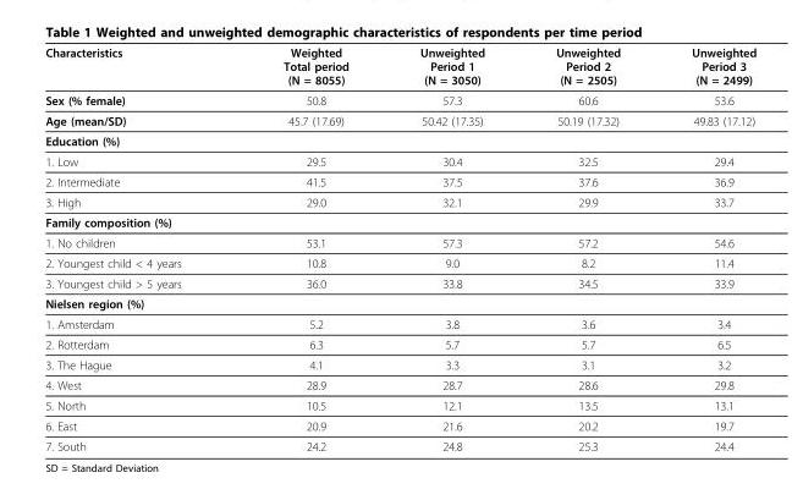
<table><thead><tr><td>Characteristics</td><td>Weighted Total period (N = 8055)</td><td>Unweighted Period 1 (N = 3050)</td><td>Unweighted Period 2 (N = 2505)</td><td>Unweighted Period 3 (N = 2499)</td></tr></thead><tbody><tr><td>Sex (% female)</td><td>50.8</td><td>57.3</td><td>60.6</td><td>53.6</td></tr><tr><td>Age (mean/SD)</td><td>45.7 (17.69)</td><td>50.42 (17.35)</td><td>50.19 (17.32)</td><td>49.83 (17.12)</td></tr><tr><td colspan="5">Education (%)</td></tr><tr><td>1. Low</td><td>29.5</td><td>30.4</td><td>32.5</td><td>29.4</td></tr><tr><td>2. Intermediate</td><td>41.5</td><td>37.5</td><td>37.6</td><td>36.9</td></tr><tr><td>3. High</td><td>29.0</td><td>32.1</td><td>29.9</td><td>33.7</td></tr><tr><td colspan="5">Family composition (%)</td></tr><tr><td>1. No children</td><td>53.1</td><td>57.3</td><td>57.2</td><td>54.6</td></tr><tr><td>2. Youngest child &lt; 4 years</td><td>10.8</td><td>9.0</td><td>8.2</td><td>11.4</td></tr><tr><td>3. Youngest child &gt; 5 years</td><td>36.0</td><td>33.8</td><td>34.5</td><td>33.9</td></tr><tr><td colspan="5">Nielsen region (%)</td></tr><tr><td>1. Amsterdam</td><td>5.2</td><td>3.8</td><td>3.6</td><td>3.4</td></tr><tr><td>2. Rotterdam</td><td>6.3</td><td>5.7</td><td>5.7</td><td>6.5</td></tr><tr><td>3. The Hague</td><td>4.1</td><td>3.3</td><td>3.1</td><td>3.2</td></tr><tr><td>4. West</td><td>28.9</td><td>28.7</td><td>28.6</td><td>29.8</td></tr><tr><td>5. North</td><td>10.5</td><td>12.1</td><td>13.5</td><td>13.1</td></tr><tr><td>6. East</td><td>20.9</td><td>21.6</td><td>20.2</td><td>19.7</td></tr><tr><td>7. South</td><td>24.2</td><td>24.8</td><td>25.3</td><td>24.4</td></tr></tbody></table>